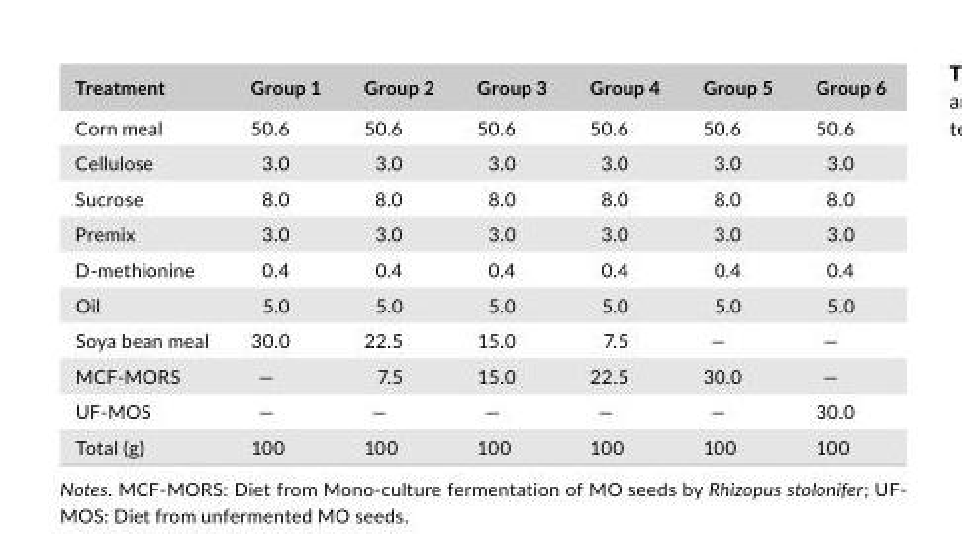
<table><thead><tr><td>Treatment</td><td>Group 1</td><td>Group 2</td><td>Group 3</td><td>Group 4</td><td>Group 5</td><td>Group 6</td></tr></thead><tbody><tr><td>Corn meal</td><td>50.6</td><td>50.6</td><td>50.6</td><td>50.6</td><td>50.6</td><td>50.6</td></tr><tr><td>Cellulose</td><td>3.0</td><td>3.0</td><td>3.0</td><td>3.0</td><td>3.0</td><td>3.0</td></tr><tr><td>Sucrose</td><td>8.0</td><td>8.0</td><td>8.0</td><td>8.0</td><td>8.0</td><td>8.0</td></tr><tr><td>Premix</td><td>3.0</td><td>3.0</td><td>3.0</td><td>3.0</td><td>3.0</td><td>3.0</td></tr><tr><td>D- methionine</td><td>0.4</td><td>0.4</td><td>0.4</td><td>0.4</td><td>0.4</td><td>0.4</td></tr><tr><td>Oil</td><td>5.0</td><td>5.0</td><td>5.0</td><td>5.0</td><td>5.0</td><td>5.0</td></tr><tr><td>Soya bean meal</td><td>30.0</td><td>22.5</td><td>15.0</td><td>7.5</td><td>—</td><td>—</td></tr><tr><td>MCF- MORS</td><td>—</td><td>7.5</td><td>15.0</td><td>22.5</td><td>30.0</td><td>—</td></tr><tr><td>UF- MOS</td><td>—</td><td>—</td><td>—</td><td>—</td><td>—</td><td>30.0</td></tr><tr><td>Total (g)</td><td>100</td><td>100</td><td>100</td><td>100</td><td>100</td><td>100</td></tr></tbody></table>